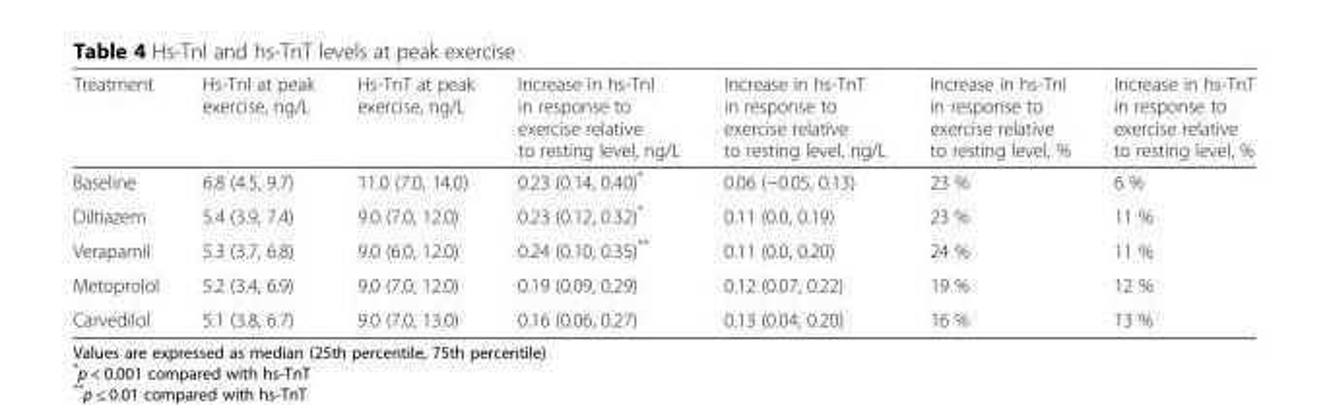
<table><thead><tr><td>Treatment</td><td>Hs-TnI at peak exercise, ng/L</td><td>Hs-TnT at peak exercise, ng/L</td><td>Increase in hs-TnI in response to exercise relative to resting level, ng/L</td><td>Increase in hs-TnT in response to exercise relative to resting level, ng/L</td><td>Increase in hs-TnI in response to exercise relative to resting level, %</td><td>Increase in hs-TnT in response to exercise relative to resting level, %</td></tr></thead><tbody><tr><td>Baseline</td><td>6.8 (4.5, 9.7)</td><td>11.0 (7.0, 14.0)</td><td>0.23 (0.14, 0.40)*</td><td>0.06 (−0.05, 0.13)</td><td>23 %</td><td>6 %</td></tr><tr><td>Diltiazem</td><td>5.4 (3.9, 7.4)</td><td>9.0 (7.0, 12.0)</td><td>0.23 (0.12, 0.32)*</td><td>0.11 (0.0, 0.19)</td><td>23 %</td><td>11 %</td></tr><tr><td>Verapamil</td><td>5.3 (3.7, 6.8)</td><td>9.0 (6.0, 12.0)</td><td>0.24 (0.10, 0.35)**</td><td>0.11 (0.0, 0.20)</td><td>24 %</td><td>11 %</td></tr><tr><td>Metoprolol</td><td>5.2 (3.4, 6.9)</td><td>9.0 (7.0, 12.0)</td><td>0.19 (0.09, 0.29)</td><td>0.12 (0.07, 0.22)</td><td>19 %</td><td>12 %</td></tr><tr><td>Carvedilol</td><td>5.1 (3.8, 6.7)</td><td>9.0 (7.0, 13.0)</td><td>0.16 (0.06, 0.27)</td><td>0.13 (0.04, 0.20)</td><td>16 %</td><td>13 %</td></tr></tbody></table>